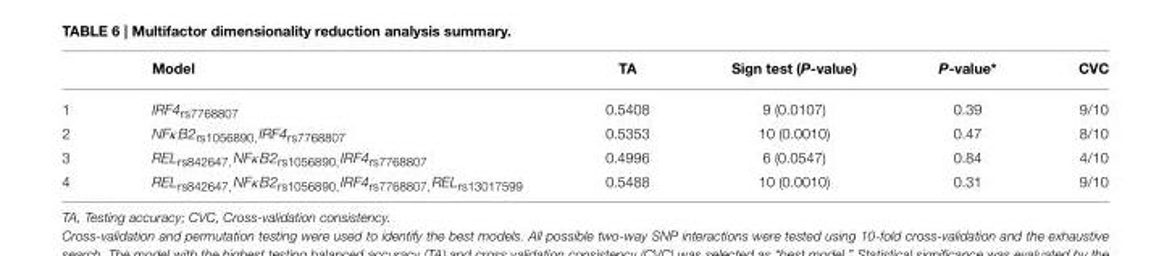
<table><thead><tr><td></td><td>Model</td><td>TA</td><td>Sign test (P-value)</td><td>P-value*</td><td>CVC</td></tr></thead><tbody><tr><td>1</td><td>IRF4<sub>rs7768807</sub></td><td>0.5408</td><td>9 (0.0107)</td><td>0.39</td><td>9/10</td></tr><tr><td>2</td><td>NF<sub>κ</sub>B2<sub>rs1056890</sub>,IRF4<sub>rs7768807</sub></td><td>0.5353</td><td>10 (0.0010)</td><td>0.47</td><td>8/10</td></tr><tr><td>3</td><td>REL<sub>rs842647</sub>,NFκB2<sub>rs1056890</sub>,IRF4<sub>rs7768807</sub></td><td>0.4996</td><td>6 (0.0547)</td><td>0.84</td><td>4/10</td></tr><tr><td>4</td><td>REL<sub>rs842647</sub>,NF<sub>κ</sub>B2<sub>rs1056890</sub>,IRF4<sub>rs7768807</sub>,REL<sub>rs13017599</sub></td><td>0.5488</td><td>10 (0.0010)</td><td>0.31</td><td>9/10</td></tr></tbody></table>